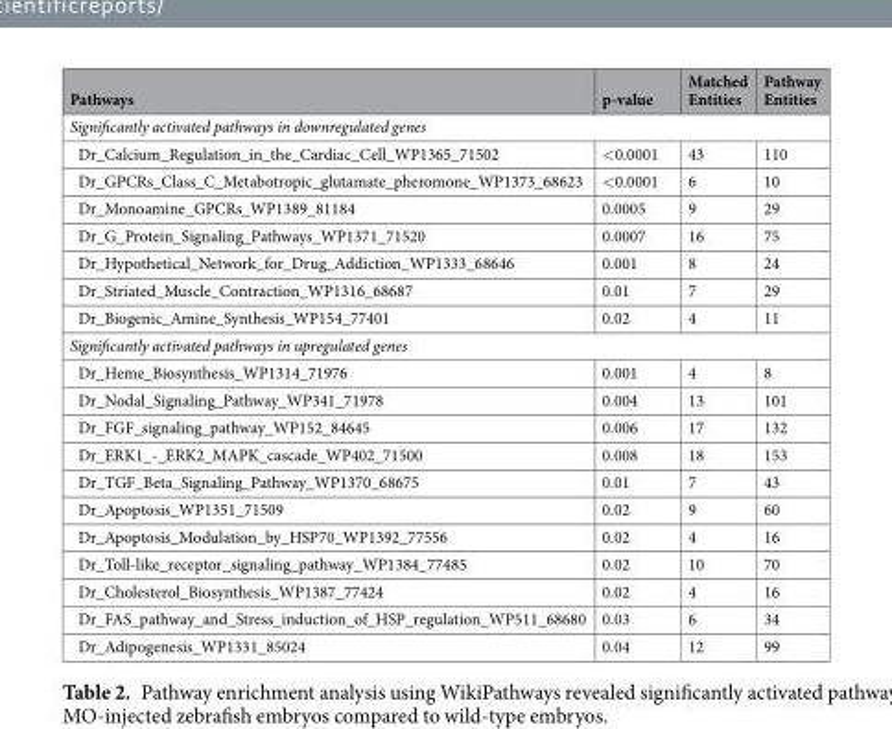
<table><thead><tr><td>Pathways</td><td>p-value</td><td>Matched Entities</td><td>Pathway Entities</td></tr></thead><tbody><tr><td colspan="4">Significantly activated pathways in downregulated genes</td></tr><tr><td>Dr_Calcium_Regulation_in_the_Cardiac_Cell_WP1365_71502</td><td>&lt;0.0001</td><td>43</td><td>110</td></tr><tr><td>Dr_GPCRs_Class_C_Metabotropic_glutamate_pheromone_WP1373_68623</td><td>&lt;0.0001</td><td>6</td><td>10</td></tr><tr><td>Dr_Monoamine_GPCRs_WP1389_81184</td><td>0.0005</td><td>9</td><td>29</td></tr><tr><td>Dr_G_Protein_Signaling_Pathways_WP1371_71520</td><td>0.0007</td><td>16</td><td>75</td></tr><tr><td>Dr_Hypothetical_Network_for_Drug_Addiction_WP1333_68646</td><td>0.001</td><td>8</td><td>24</td></tr><tr><td>Dr_Striated_Muscle_Contraction_WP1316_68687</td><td>0.01</td><td>7</td><td>29</td></tr><tr><td>Dr_Biogenic_Amine_Synthesis_WP154_77401</td><td>0.02</td><td>4</td><td>11</td></tr><tr><td colspan="4">Significantly activated pathways in upregulated genes</td></tr><tr><td>Dr_Heme_Biosynthesis_WP1314_71976</td><td>0.001</td><td>4</td><td>8</td></tr><tr><td>Dr_Nodal_Signaling_Pathway_WP341_71978</td><td>0.004</td><td>13</td><td>101</td></tr><tr><td>Dr_FGF_signaling_pathway_WP152_84645</td><td>0.006</td><td>17</td><td>132</td></tr><tr><td>Dr_ERK1_-_ERK2_MAPK_cascade_WP402_71500</td><td>0.008</td><td>18</td><td>153</td></tr><tr><td>Dr_TGF_Beta_Signaling_Pathway_WP1370_68675</td><td>0.01</td><td>7</td><td>43</td></tr><tr><td>Dr_Apoptosis_WP1351_71509</td><td>0.02</td><td>9</td><td>60</td></tr><tr><td>Dr_Apoptosis_Modulation_by_HSP70_WP1392_77556</td><td>0.02</td><td>4</td><td>16</td></tr><tr><td>Dr_Toll-like_receptor_signaling_pathway_WP1384_77485</td><td>0.02</td><td>10</td><td>70</td></tr><tr><td>Dr_Cholesterol_Biosynthesis_WP1387_77424</td><td>0.02</td><td>4</td><td>16</td></tr><tr><td>Dr_FAS_pathway_and_Stress_induction_of_HSP_regulation_WP511_68680</td><td>0.03</td><td>6</td><td>34</td></tr><tr><td>Dr_Adipogenesis_WP1331_85024</td><td>0.04</td><td>12</td><td>99</td></tr></tbody></table>